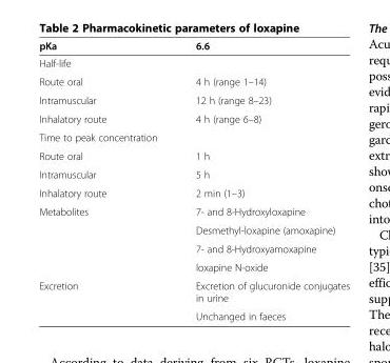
<table><thead><tr><td>pKa</td><td>6.6</td></tr></thead><tbody><tr><td colspan="2">Half-life</td></tr><tr><td>Route oral</td><td>4 h (range 1–14)</td></tr><tr><td>Intramuscular</td><td>12 h (range 8–23)</td></tr><tr><td>Inhalatory route</td><td>4 h (range 6–8)</td></tr><tr><td colspan="2">Time to peak concentration</td></tr><tr><td>Route oral</td><td>1 h</td></tr><tr><td>Intramuscular</td><td>5 h</td></tr><tr><td>Inhalatory route</td><td>2 min (1–3)</td></tr><tr><td rowspan="4">Metabolites</td><td>7- and 8-Hydroxyloxapine</td></tr><tr><td>Desmethyl-loxapine (amoxapine)</td></tr><tr><td>7- and 8-Hydroxyamoxapine</td></tr><tr><td>Ioxapine N-oxide</td></tr><tr><td rowspan="2">Excretion</td><td>Excretion of glucuronide conjugates in urine</td></tr><tr><td>Unchanged in faeces</td></tr></tbody></table>